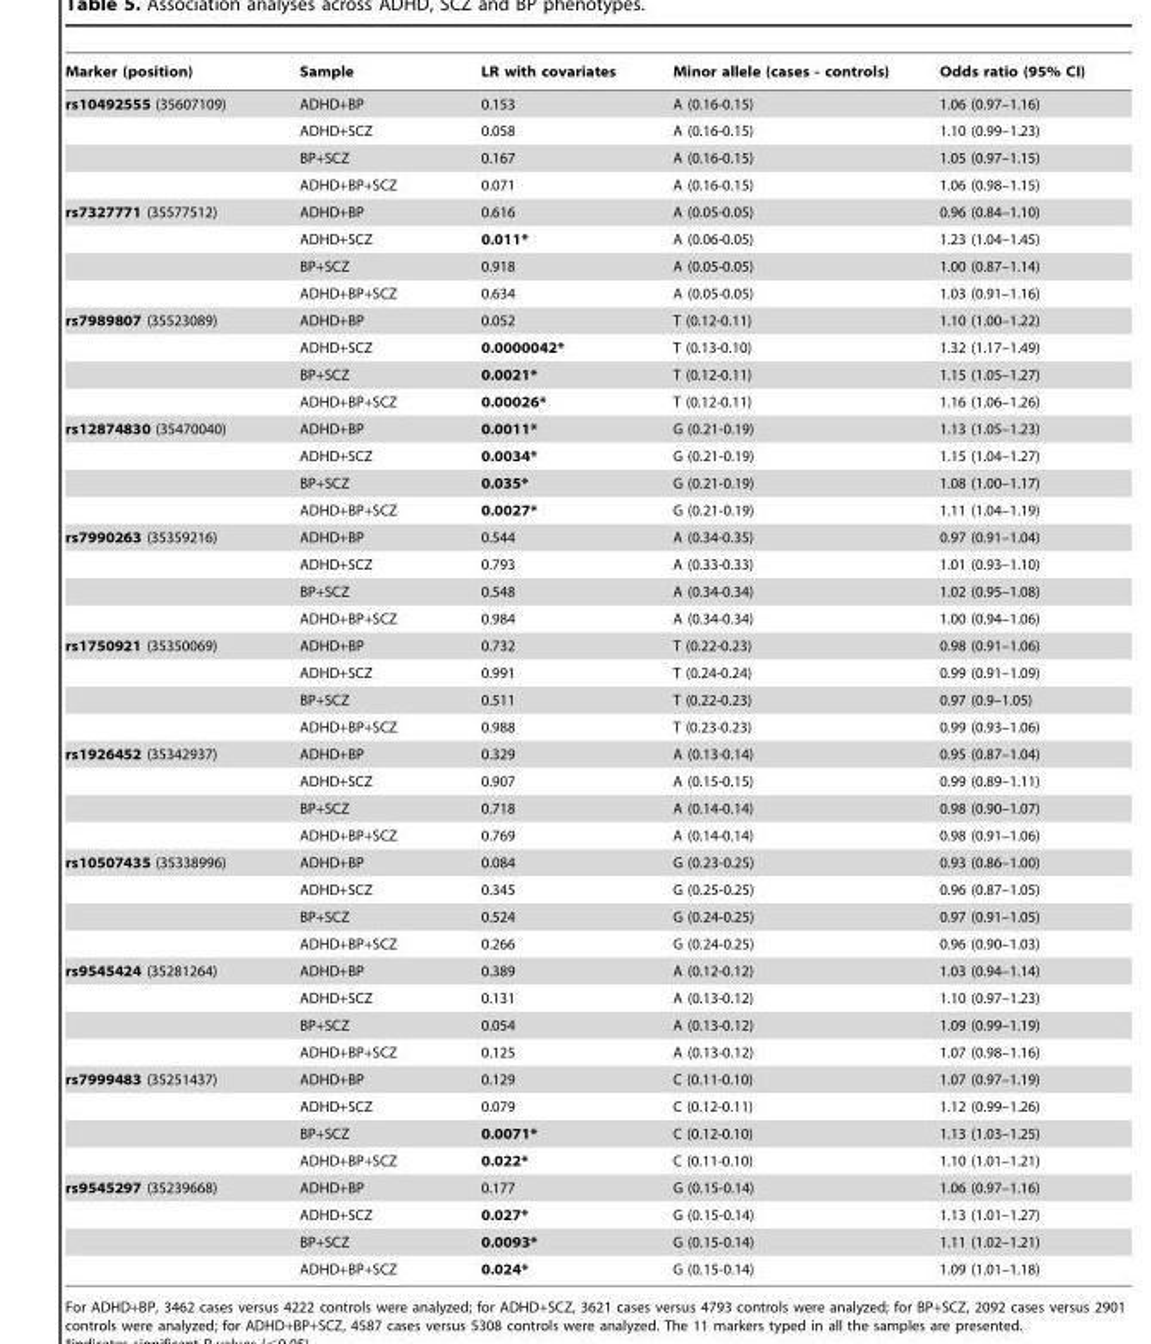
<table><thead><tr><td>Marker (position)</td><td>Sample</td><td>LR with covariates</td><td>Minor allele (cases - controls)</td><td>Odds ratio (95% CI)</td></tr></thead><tbody><tr><td rowspan="4">rs10492555 (35607109)</td><td>ADHD+BP</td><td>0.153</td><td>A (0.16-0.15)</td><td>1.06 (0.97–1.16)</td></tr><tr><td>ADHD+SCZ</td><td>0.058</td><td>A (0.16-0.15)</td><td>1.10 (0.99–1.23)</td></tr><tr><td>BP+SCZ</td><td>0.167</td><td>A (0.16-0.15)</td><td>1.05 (0.97–1.15)</td></tr><tr><td>ADHD+BP+SCZ</td><td>0.071</td><td>A (0.16-0.15)</td><td>1.06 (0.98–1.15)</td></tr><tr><td rowspan="4">rs7327771 (35577512)</td><td>ADHD+BP</td><td>0.616</td><td>A (0.05-0.05)</td><td>0.96 (0.84–1.10)</td></tr><tr><td>ADHD+SCZ</td><td>0.011*</td><td>A (0.06-0.05)</td><td>1.23 (1.04–1.45)</td></tr><tr><td>BP+SCZ</td><td>0.918</td><td>A (0.05-0.05)</td><td>1.00 (0.87–1.14)</td></tr><tr><td>ADHD+BP+SCZ</td><td>0.634</td><td>A (0.05-0.05)</td><td>1.03 (0.91–1.16)</td></tr><tr><td rowspan="4">rs7989807 (35523089)</td><td>ADHD+BP</td><td>0.052</td><td>T (0.12-0.11)</td><td>1.10 (1.00–1.22)</td></tr><tr><td>ADHD+SCZ</td><td>0.0000042*</td><td>T (0.13-0.10)</td><td>1.32 (1.17–1.49)</td></tr><tr><td>BP+SCZ</td><td>0.0021*</td><td>T (0.12-0.11)</td><td>1.15 (1.05–1.27)</td></tr><tr><td>ADHD+BP+SCZ</td><td>0.00026*</td><td>T (0.12-0.11)</td><td>1.16 (1.06–1.26)</td></tr><tr><td rowspan="4">rs12874830 (35470040)</td><td>ADHD+BP</td><td>0.0011*</td><td>G (0.21-0.19)</td><td>1.13 (1.05–1.23)</td></tr><tr><td>ADHD+SCZ</td><td>0.0034*</td><td>G (0.21-0.19)</td><td>1.15 (1.04–1.27)</td></tr><tr><td>BP+SCZ</td><td>0.035*</td><td>G (0.21-0.19)</td><td>1.08 (1.00–1.17)</td></tr><tr><td>ADHD+BP+SCZ</td><td>0.0027*</td><td>G (0.21-0.19)</td><td>1.11 (1.04–1.19)</td></tr><tr><td rowspan="4">rs7990263 (35359216)</td><td>ADHD+BP</td><td>0.544</td><td>A (0.34-0.35)</td><td>0.97 (0.91–1.04)</td></tr><tr><td>ADHD+SCZ</td><td>0.793</td><td>A (0.33-0.33)</td><td>1.01 (0.93–1.10)</td></tr><tr><td>BP+SCZ</td><td>0.548</td><td>A (0.34-0.34)</td><td>1.02 (0.95–1.08)</td></tr><tr><td>ADHD+BP+SCZ</td><td>0.984</td><td>A (0.34-0.34)</td><td>1.00 (0.94–1.06)</td></tr><tr><td rowspan="4">rs1750921 (35350069)</td><td>ADHD+BP</td><td>0.732</td><td>T (0.22-0.23)</td><td>0.98 (0.91–1.06)</td></tr><tr><td>ADHD+SCZ</td><td>0.991</td><td>T (0.24-0.24)</td><td>0.99 (0.91–1.09)</td></tr><tr><td>BP+SCZ</td><td>0.511</td><td>T (0.22-0.23)</td><td>0.97 (0.9–1.05)</td></tr><tr><td>ADHD+BP+SCZ</td><td>0.988</td><td>T (0.23-0.23)</td><td>0.99 (0.93–1.06)</td></tr><tr><td rowspan="4">rs1926452 (35342937)</td><td>ADHD+BP</td><td>0.329</td><td>A (0.13-0.14)</td><td>0.95 (0.87–1.04)</td></tr><tr><td>ADHD+SCZ</td><td>0.907</td><td>A (0.15-0.15)</td><td>0.99 (0.89–1.11)</td></tr><tr><td>BP+SCZ</td><td>0.718</td><td>A (0.14-0.14)</td><td>0.98 (0.90–1.07)</td></tr><tr><td>ADHD+BP+SCZ</td><td>0.769</td><td>A (0.14-0.14)</td><td>0.98 (0.91–1.06)</td></tr><tr><td rowspan="4">rs10507435 (35338996)</td><td>ADHD+BP</td><td>0.084</td><td>G (0.23-0.25)</td><td>0.93 (0.86–1.00)</td></tr><tr><td>ADHD+SCZ</td><td>0.345</td><td>G (0.25-0.25)</td><td>0.96 (0.87–1.05)</td></tr><tr><td>BP+SCZ</td><td>0.524</td><td>G (0.24-0.25)</td><td>0.97 (0.91–1.05)</td></tr><tr><td>ADHD+BP+SCZ</td><td>0.266</td><td>G (0.24-0.25)</td><td>0.96 (0.90–1.03)</td></tr><tr><td rowspan="4">rs9545424 (35281264)</td><td>ADHD+BP</td><td>0.389</td><td>A (0.12-0.12)</td><td>1.03 (0.94–1.14)</td></tr><tr><td>ADHD+SCZ</td><td>0.131</td><td>A (0.13-0.12)</td><td>1.10 (0.97–1.23)</td></tr><tr><td>BP+SCZ</td><td>0.054</td><td>A (0.13-0.12)</td><td>1.09 (0.99–1.19)</td></tr><tr><td>ADHD+BP+SCZ</td><td>0.125</td><td>A (0.13-0.12)</td><td>1.07 (0.98–1.16)</td></tr><tr><td rowspan="4">rs7999483 (35251437)</td><td>ADHD+BP</td><td>0.129</td><td>C (0.11-0.10)</td><td>1.07 (0.97–1.19)</td></tr><tr><td>ADHD+SCZ</td><td>0.079</td><td>C (0.12-0.11)</td><td>1.12 (0.99–1.26)</td></tr><tr><td>BP+SCZ</td><td>0.0071*</td><td>C (0.12-0.10)</td><td>1.13 (1.03–1.25)</td></tr><tr><td>ADHD+BP+SCZ</td><td>0.022*</td><td>C (0.11-0.10)</td><td>1.10 (1.01–1.21)</td></tr><tr><td rowspan="4">rs9545297 (35239668)</td><td>ADHD+BP</td><td>0.177</td><td>G (0.15-0.14)</td><td>1.06 (0.97–1.16)</td></tr><tr><td>ADHD+SCZ</td><td>0.027*</td><td>G (0.15-0.14)</td><td>1.13 (1.01–1.27)</td></tr><tr><td>BP+SCZ</td><td>0.0093*</td><td>G (0.15-0.14)</td><td>1.11 (1.02–1.21)</td></tr><tr><td>ADHD+BP+SCZ</td><td>0.024*</td><td>G (0.15-0.14)</td><td>1.09 (1.01–1.18)</td></tr></tbody></table>